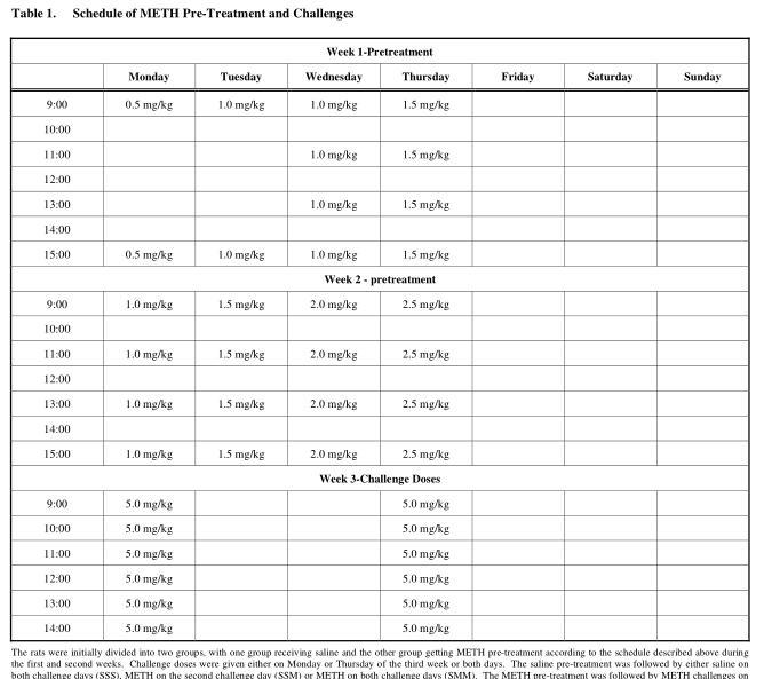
<table><thead><tr><td colspan="8">Week 1-Pretreatment</td></tr><tr><td></td><td>Monday</td><td>Tuesday</td><td>Wednesday</td><td>Thursday</td><td>Friday</td><td>Saturday</td><td>Sunday</td></tr></thead><tbody><tr><td>9:00</td><td>0.5 mg/kg</td><td>1.0 mg/kg</td><td>1.0 mg/kg</td><td>1.5 mg/kg</td><td></td><td></td><td></td></tr><tr><td colspan="8">10:00</td></tr><tr><td>11:00</td><td></td><td></td><td>1.0 mg/kg</td><td>1.5 mg/kg</td><td></td><td></td><td></td></tr><tr><td colspan="8">12:00</td></tr><tr><td>13:00</td><td></td><td></td><td>1.0 mg/kg</td><td>1.5 mg/kg</td><td></td><td></td><td></td></tr><tr><td colspan="8">14:00</td></tr><tr><td>15:00</td><td>0.5 mg/kg</td><td>1.0 mg/kg</td><td>1.0 mg/kg</td><td>1.5 mg/kg</td><td></td><td></td><td></td></tr><tr><td colspan="8">Week 2 - pretreatment</td></tr><tr><td>9:00</td><td>1.0 mg/kg</td><td>1.5 mg/kg</td><td>2.0 mg/kg</td><td>2.5 mg/kg</td><td></td><td></td><td></td></tr><tr><td colspan="8">10:00</td></tr><tr><td>11:00</td><td>1.0 mg/kg</td><td>1.5 mg/kg</td><td>2.0 mg/kg</td><td>2.5 mg/kg</td><td></td><td></td><td></td></tr><tr><td colspan="8">12:00</td></tr><tr><td>13:00</td><td>1.0 mg/kg</td><td>1.5 mg/kg</td><td>2.0 mg/kg</td><td>2.5 mg/kg</td><td></td><td></td><td></td></tr><tr><td colspan="8">14:00</td></tr><tr><td>15:00</td><td>1.0 mg/kg</td><td>1.5 mg/kg</td><td>2.0 mg/kg</td><td>2.5 mg/kg</td><td></td><td></td><td></td></tr><tr><td colspan="8">Week 3-Challenge Doses</td></tr><tr><td>9:00</td><td>5.0 mg/kg</td><td></td><td></td><td>5.0 mg/kg</td><td></td><td></td><td></td></tr><tr><td>10:00</td><td>5.0 mg/kg</td><td></td><td></td><td>5.0 mg/kg</td><td></td><td></td><td></td></tr><tr><td>11:00</td><td>5.0 mg/kg</td><td></td><td></td><td>5.0 mg/kg</td><td></td><td></td><td></td></tr><tr><td>12:00</td><td>5.0 mg/kg</td><td></td><td></td><td>5.0 mg/kg</td><td></td><td></td><td></td></tr><tr><td>13:00</td><td>5.0 mg/kg</td><td></td><td></td><td>5.0 mg/kg</td><td></td><td></td><td></td></tr><tr><td>14:00</td><td>5.0 mg/kg</td><td></td><td></td><td>5.0 mg/kg</td><td></td><td></td><td></td></tr></tbody></table>